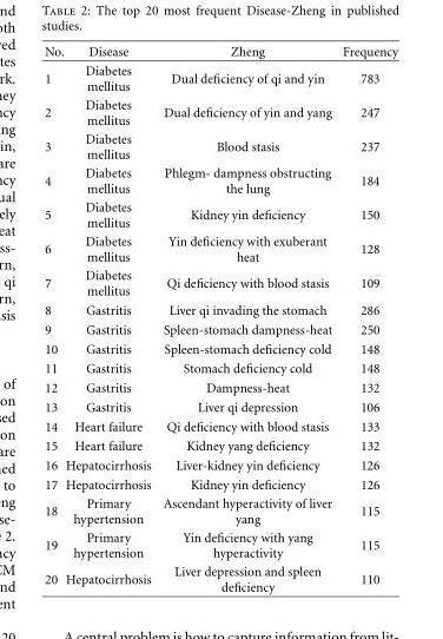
<table><thead><tr><td>No.</td><td>Disease</td><td>Zheng</td><td>Frequency</td></tr></thead><tbody><tr><td>1</td><td>Diabetes mellitus</td><td>Dual deficiency of qi and yin</td><td>783</td></tr><tr><td>2</td><td>Diabetes mellitus</td><td>Dual deficiency of yin and yang</td><td>247</td></tr><tr><td>3</td><td>Diabetes mellitus</td><td>Blood stasis</td><td>237</td></tr><tr><td>4</td><td>Diabetes mellitus</td><td>Phlegm- dampness obstructing the lung</td><td>184</td></tr><tr><td>5</td><td>Diabetes mellitus</td><td>Kidney yin deficiency</td><td>150</td></tr><tr><td>6</td><td>Diabetes mellitus</td><td>Yin deficiency with exuberant heat</td><td>128</td></tr><tr><td>7</td><td>Diabetes mellitus</td><td>Qi deficiency with blood stasis</td><td>109</td></tr><tr><td>8</td><td>Gastritis</td><td>Liver qi invading the stomach</td><td>286</td></tr><tr><td>9</td><td>Gastritis</td><td>Spleen-stomach dampness-heat</td><td>250</td></tr><tr><td>10</td><td>Gastritis</td><td>Spleen-stomach deficiency cold</td><td>148</td></tr><tr><td>11</td><td>Gastritis</td><td>Stomach deficiency cold</td><td>148</td></tr><tr><td>12</td><td>Gastritis</td><td>Dampness-heat</td><td>132</td></tr><tr><td>13</td><td>Gastritis</td><td>Liver qi depression</td><td>106</td></tr><tr><td>14</td><td>Heart failure</td><td>Qi deficiency with blood stasis</td><td>133</td></tr><tr><td>15</td><td>Heart failure</td><td>Kidney yang deficiency</td><td>132</td></tr><tr><td>16</td><td>Hepatocirrhosis</td><td>Liver-kidney yin deficiency</td><td>126</td></tr><tr><td>17</td><td>Hepatocirrhosis</td><td>Kidney yin deficiency</td><td>126</td></tr><tr><td>18</td><td>Primary hypertension</td><td>Ascendant hyperactivity of liver yang</td><td>115</td></tr><tr><td>19</td><td>Primary hypertension</td><td>Yin deficiency with yang hyperactivity</td><td>115</td></tr><tr><td>20</td><td>Hepatocirrhosis</td><td>Liver depression and spleen deficiency</td><td>110</td></tr></tbody></table>